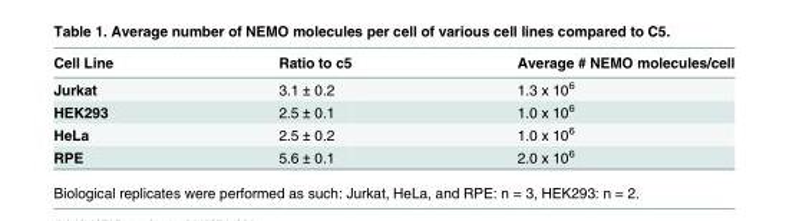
<table><thead><tr><td>Cell Line</td><td>Ratio to c5</td><td>Average # NEMO molecules/cell</td></tr></thead><tbody><tr><td>Jurkat</td><td>3.1 ± 0.2</td><td>1.3 x 10<sup>6</sup></td></tr><tr><td>HEK293</td><td>2.5 ± 0.1</td><td>1.0 x 10<sup>6</sup></td></tr><tr><td>HeLa</td><td>2.5 ± 0.2</td><td>1.0 x 10<sup>6</sup></td></tr><tr><td>RPE</td><td>5.6 ± 0.1</td><td>2.0 x 10<sup>6</sup></td></tr></tbody></table>